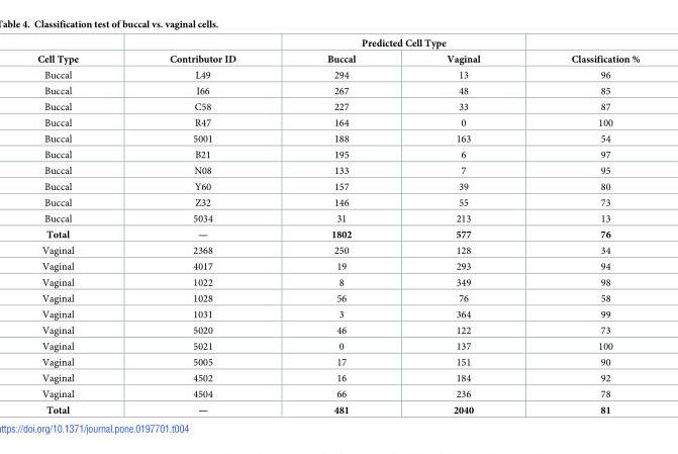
<table><thead><tr><td rowspan="2">Cell Type</td><td rowspan="2">Contributor ID</td><td colspan="2">Predicted Cell Type</td><td rowspan="2">Classification %</td></tr><tr><td>Buccal</td><td>Vaginal</td></tr></thead><tbody><tr><td>Buccal</td><td>L49</td><td>294</td><td>13</td><td>96</td></tr><tr><td>Buccal</td><td>I66</td><td>267</td><td>48</td><td>85</td></tr><tr><td>Buccal</td><td>C58</td><td>227</td><td>33</td><td>87</td></tr><tr><td>Buccal</td><td>R47</td><td>164</td><td>0</td><td>100</td></tr><tr><td>Buccal</td><td>5001</td><td>188</td><td>163</td><td>54</td></tr><tr><td>Buccal</td><td>B21</td><td>195</td><td>6</td><td>97</td></tr><tr><td>Buccal</td><td>N08</td><td>133</td><td>7</td><td>95</td></tr><tr><td>Buccal</td><td>Y60</td><td>157</td><td>39</td><td>80</td></tr><tr><td>Buccal</td><td>Z32</td><td>146</td><td>55</td><td>73</td></tr><tr><td>Buccal</td><td>5034</td><td>31</td><td>213</td><td>13</td></tr><tr><td>Total</td><td>—</td><td>1802</td><td>577</td><td>76</td></tr><tr><td>Vaginal</td><td>2368</td><td>250</td><td>128</td><td>34</td></tr><tr><td>Vaginal</td><td>4017</td><td>19</td><td>293</td><td>94</td></tr><tr><td>Vaginal</td><td>1022</td><td>8</td><td>349</td><td>98</td></tr><tr><td>Vaginal</td><td>1028</td><td>56</td><td>76</td><td>58</td></tr><tr><td>Vaginal</td><td>1031</td><td>3</td><td>364</td><td>99</td></tr><tr><td>Vaginal</td><td>5020</td><td>46</td><td>122</td><td>73</td></tr><tr><td>Vaginal</td><td>5021</td><td>0</td><td>137</td><td>100</td></tr><tr><td>Vaginal</td><td>5005</td><td>17</td><td>151</td><td>90</td></tr><tr><td>Vaginal</td><td>4502</td><td>16</td><td>184</td><td>92</td></tr><tr><td>Vaginal</td><td>4504</td><td>66</td><td>236</td><td>78</td></tr><tr><td>Total</td><td>—</td><td>481</td><td>2040</td><td>81</td></tr></tbody></table>